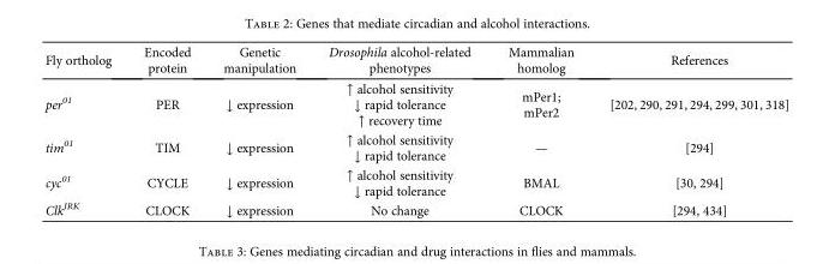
<table><thead><tr><td>Fly ortholog</td><td>Encoded protein</td><td>Genetic manipulation</td><td>Drosophila alcohol-related phenotypes</td><td>Mammalian homolog</td><td>References</td></tr></thead><tbody><tr><td>per<sup>01</sup></td><td>PER</td><td>↓ expression</td><td>↑ alcohol sensitivity ↓ rapid tolerance ↑ recovery time</td><td>mPer1; mPer2</td><td>[202, 290, 291, 294, 299, 301, 318]</td></tr><tr><td>tim<sup>01</sup></td><td>TIM</td><td>↓ expression</td><td>↑ alcohol sensitivity ↓ rapid tolerance</td><td>—</td><td>[294]</td></tr><tr><td>cyc<sup>01</sup></td><td>CYCLE</td><td>↓ expression</td><td>↑ alcohol sensitivity ↓ rapid tolerance</td><td>BMAL</td><td>[30, 294]</td></tr><tr><td>Clk<sup>JRK</sup></td><td>CLOCK</td><td>↓ expression</td><td>No change</td><td>CLOCK</td><td>[294, 434]</td></tr></tbody></table>